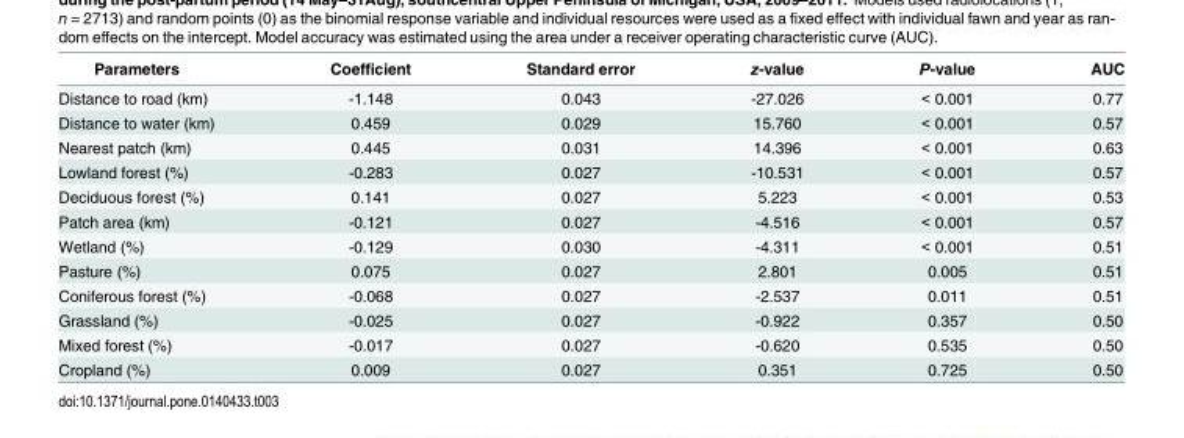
<table><thead><tr><td>Parameters</td><td>Coefficient</td><td>Standard error</td><td>z-value</td><td>P-value</td><td>AUC</td></tr></thead><tbody><tr><td>Distance to road (km)</td><td>-1.148</td><td>0.043</td><td>-27.026</td><td>&lt; 0.001</td><td>0.77</td></tr><tr><td>Distance to water (km)</td><td>0.459</td><td>0.029</td><td>15.760</td><td>&lt; 0.001</td><td>0.57</td></tr><tr><td>Nearest patch (km)</td><td>0.445</td><td>0.031</td><td>14.396</td><td>&lt; 0.001</td><td>0.63</td></tr><tr><td>Lowland forest (%)</td><td>-0.283</td><td>0.027</td><td>-10.531</td><td>&lt; 0.001</td><td>0.57</td></tr><tr><td>Deciduous forest (%)</td><td>0.141</td><td>0.027</td><td>5.223</td><td>&lt; 0.001</td><td>0.53</td></tr><tr><td>Patch area (km)</td><td>-0.121</td><td>0.027</td><td>-4.516</td><td>&lt; 0.001</td><td>0.57</td></tr><tr><td>Wetland (%)</td><td>-0.129</td><td>0.030</td><td>-4.311</td><td>&lt; 0.001</td><td>0.51</td></tr><tr><td>Pasture (%)</td><td>0.075</td><td>0.027</td><td>2.801</td><td>0.005</td><td>0.51</td></tr><tr><td>Coniferous forest (%)</td><td>-0.068</td><td>0.027</td><td>-2.537</td><td>0.011</td><td>0.51</td></tr><tr><td>Grassland (%)</td><td>-0.025</td><td>0.027</td><td>-0.922</td><td>0.357</td><td>0.50</td></tr><tr><td>Mixed forest (%)</td><td>-0.017</td><td>0.027</td><td>-0.620</td><td>0.535</td><td>0.50</td></tr><tr><td>Cropland (%)</td><td>0.009</td><td>0.027</td><td>0.351</td><td>0.725</td><td>0.50</td></tr></tbody></table>